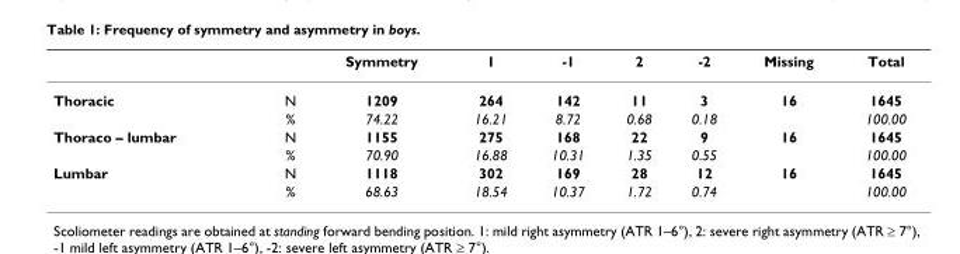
<table><thead><tr><td></td><td></td><td>Symmetry</td><td>1</td><td>-1</td><td>2</td><td>-2</td><td>Missing</td><td>Total</td></tr></thead><tbody><tr><td rowspan="2">Thoracic</td><td>N</td><td>1209</td><td>264</td><td>142</td><td>11</td><td>3</td><td>16</td><td>1645</td></tr><tr><td>%</td><td>74.22</td><td>16.21</td><td>8.72</td><td>0.68</td><td>0.18</td><td></td><td>100.00</td></tr><tr><td rowspan="2">Thoraco – lumbar</td><td>N</td><td>1155</td><td>275</td><td>168</td><td>22</td><td>9</td><td>16</td><td>1645</td></tr><tr><td>%</td><td>70.90</td><td>16.88</td><td>10.31</td><td>1.35</td><td>0.55</td><td></td><td>100.00</td></tr><tr><td rowspan="2">Lumbar</td><td>N</td><td>1118</td><td>302</td><td>169</td><td>28</td><td>12</td><td>16</td><td>1645</td></tr><tr><td>%</td><td>68.63</td><td>18.54</td><td>10.37</td><td>1.72</td><td>0.74</td><td></td><td>100.00</td></tr></tbody></table>